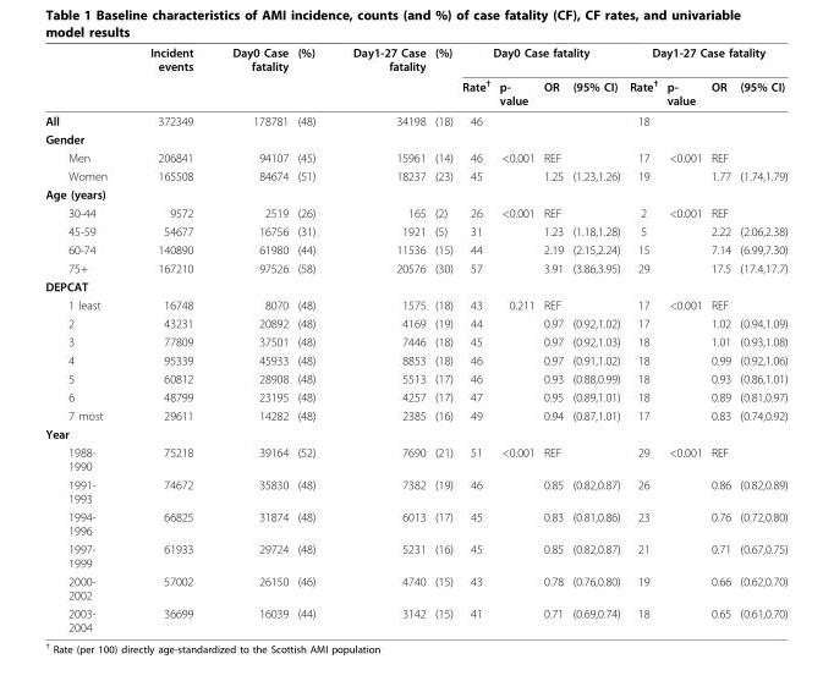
<table><thead><tr><td rowspan="2"></td><td rowspan="2">Incident events</td><td rowspan="2">Day0 Case fatality</td><td rowspan="2">(%)</td><td rowspan="2">Day1-27 Case fatality</td><td rowspan="2">(%)</td><td colspan="4">Day0 Case fatality</td><td colspan="4">Day1-27 Case fatality</td></tr><tr><td>Rate<sup>†</sup></td><td>p- value</td><td>OR</td><td>(95% CI)</td><td>Rate<sup>†</sup></td><td>p- value</td><td>OR</td><td>(95% CI)</td></tr></thead><tbody><tr><td>All</td><td>372349</td><td>178781</td><td>(48)</td><td>34198</td><td>(18)</td><td>46</td><td></td><td></td><td></td><td>18</td><td></td><td></td><td></td></tr><tr><td colspan="14">Gender</td></tr><tr><td>Men</td><td>206841</td><td>94107</td><td>(45)</td><td>15961</td><td>(14)</td><td>46</td><td>&lt;0.001</td><td>REF</td><td></td><td>17</td><td>&lt;0.001</td><td>REF</td><td></td></tr><tr><td>Women</td><td>165508</td><td>84674</td><td>(51)</td><td>18237</td><td>(23)</td><td>45</td><td></td><td>1.25</td><td>(1.23,1.26)</td><td>19</td><td></td><td>1.77</td><td>(1.74,1.79)</td></tr><tr><td colspan="14">Age (years)</td></tr><tr><td>30-44</td><td>9572</td><td>2519</td><td>(26)</td><td>165</td><td>(2)</td><td>26</td><td>&lt;0.001</td><td>REF</td><td></td><td>2</td><td>&lt;0.001</td><td>REF</td><td></td></tr><tr><td>45-59</td><td>54677</td><td>16756</td><td>(31)</td><td>1921</td><td>(5)</td><td>31</td><td></td><td>1.23</td><td>(1.18,1.28)</td><td>5</td><td></td><td>2.22</td><td>(2.06,2.38)</td></tr><tr><td>60-74</td><td>140890</td><td>61980</td><td>(44)</td><td>11536</td><td>(15)</td><td>44</td><td></td><td>2.19</td><td>(2.15,2.24)</td><td>15</td><td></td><td>7.14</td><td>(6.99,7.30)</td></tr><tr><td>75+</td><td>167210</td><td>97526</td><td>(58)</td><td>20576</td><td>(30)</td><td>57</td><td></td><td>3.91</td><td>(3.86,3.95)</td><td>29</td><td></td><td>17.5</td><td>(17.4,17.7)</td></tr><tr><td colspan="14">DEPCAT</td></tr><tr><td>1 least</td><td>16748</td><td>8070</td><td>(48)</td><td>1575</td><td>(18)</td><td>43</td><td>0.211</td><td>REF</td><td></td><td>17</td><td>&lt;0.001</td><td>REF</td><td></td></tr><tr><td>2</td><td>43231</td><td>20892</td><td>(48)</td><td>4169</td><td>(19)</td><td>44</td><td></td><td>0.97</td><td>(0.92,1.02)</td><td>17</td><td></td><td>1.02</td><td>(0.94,1.09)</td></tr><tr><td>3</td><td>77809</td><td>37501</td><td>(48)</td><td>7446</td><td>(18)</td><td>45</td><td></td><td>0.97</td><td>(0.92,1.03)</td><td>18</td><td></td><td>1.01</td><td>(0.93,1.08)</td></tr><tr><td>4</td><td>95339</td><td>45933</td><td>(48)</td><td>8853</td><td>(18)</td><td>46</td><td></td><td>0.97</td><td>(0.91,1.02)</td><td>18</td><td></td><td>0.99</td><td>(0.92,1.06)</td></tr><tr><td>5</td><td>60812</td><td>28908</td><td>(48)</td><td>5513</td><td>(17)</td><td>46</td><td></td><td>0.93</td><td>(0.88,0.99)</td><td>18</td><td></td><td>0.93</td><td>(0.86,1.01)</td></tr><tr><td>6</td><td>48799</td><td>23195</td><td>(48)</td><td>4257</td><td>(17)</td><td>47</td><td></td><td>0.95</td><td>(0.89,1.01)</td><td>18</td><td></td><td>0.89</td><td>(0.81,0.97)</td></tr><tr><td>7 most</td><td>29611</td><td>14282</td><td>(48)</td><td>2385</td><td>(16)</td><td>49</td><td></td><td>0.94</td><td>(0.87,1.01)</td><td>17</td><td></td><td>0.83</td><td>(0.74,0.92)</td></tr><tr><td colspan="14">Year</td></tr><tr><td>1988- 1990</td><td>75218</td><td>39164</td><td>(52)</td><td>7690</td><td>(21)</td><td>51</td><td>&lt;0.001</td><td>REF</td><td></td><td>29</td><td>&lt;0.001</td><td>REF</td><td></td></tr><tr><td>1991- 1993</td><td>74672</td><td>35830</td><td>(48)</td><td>7382</td><td>(19)</td><td>46</td><td></td><td>0.85</td><td>(0.82,0.87)</td><td>26</td><td></td><td>0.86</td><td>(0.82,0.89)</td></tr><tr><td>1994- 1996</td><td>66825</td><td>31874</td><td>(48)</td><td>6013</td><td>(17)</td><td>45</td><td></td><td>0.83</td><td>(0.81,0.86)</td><td>23</td><td></td><td>0.76</td><td>(0.72,0.80)</td></tr><tr><td>1997- 1999</td><td>61933</td><td>29724</td><td>(48)</td><td>5231</td><td>(16)</td><td>45</td><td></td><td>0.85</td><td>(0.82,0.87)</td><td>21</td><td></td><td>0.71</td><td>(0.67,0.75)</td></tr><tr><td>2000- 2002</td><td>57002</td><td>26150</td><td>(46)</td><td>4740</td><td>(15)</td><td>43</td><td></td><td>0.78</td><td>(0.76,0.80)</td><td>19</td><td></td><td>0.66</td><td>(0.62,0.70)</td></tr><tr><td>2003- 2004</td><td>36699</td><td>16039</td><td>(44)</td><td>3142</td><td>(15)</td><td>41</td><td></td><td>0.71</td><td>(0.69,0.74)</td><td>18</td><td></td><td>0.65</td><td>(0.61,0.70)</td></tr></tbody></table>